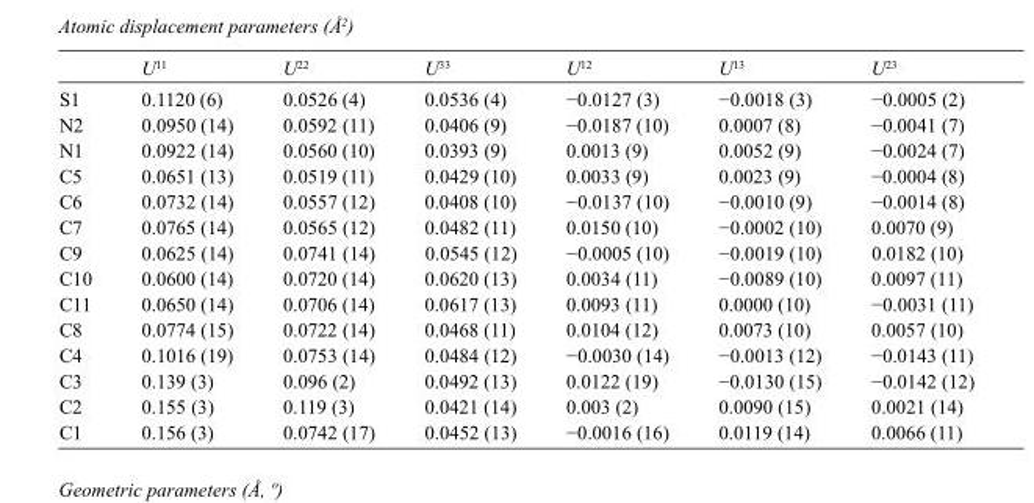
<table><thead><tr><td></td><td>U<sup>11</sup></td><td>U<sup>22</sup></td><td>U<sup>33</sup></td><td>U<sup>12</sup></td><td>U<sup>13</sup></td><td>U<sup>23</sup></td></tr></thead><tbody><tr><td>S1</td><td>0.1120 (6)</td><td>0.0526 (4)</td><td>0.0536 (4)</td><td>−0.0127 (3)</td><td>−0.0018 (3)</td><td>−0.0005 (2)</td></tr><tr><td>N2</td><td>0.0950 (14)</td><td>0.0592 (11)</td><td>0.0406 (9)</td><td>−0.0187 (10)</td><td>0.0007 (8)</td><td>−0.0041 (7)</td></tr><tr><td>N1</td><td>0.0922 (14)</td><td>0.0560 (10)</td><td>0.0393 (9)</td><td>0.0013 (9)</td><td>0.0052 (9)</td><td>−0.0024 (7)</td></tr><tr><td>C5</td><td>0.0651 (13)</td><td>0.0519 (11)</td><td>0.0429 (10)</td><td>0.0033 (9)</td><td>0.0023 (9)</td><td>−0.0004 (8)</td></tr><tr><td>C6</td><td>0.0732 (14)</td><td>0.0557 (12)</td><td>0.0408 (10)</td><td>−0.0137 (10)</td><td>−0.0010 (9)</td><td>−0.0014 (8)</td></tr><tr><td>C7</td><td>0.0765 (14)</td><td>0.0565 (12)</td><td>0.0482 (11)</td><td>0.0150 (10)</td><td>−0.0002 (10)</td><td>0.0070 (9)</td></tr><tr><td>C9</td><td>0.0625 (14)</td><td>0.0741 (14)</td><td>0.0545 (12)</td><td>−0.0005 (10)</td><td>−0.0019 (10)</td><td>0.0182 (10)</td></tr><tr><td>C10</td><td>0.0600 (14)</td><td>0.0720 (14)</td><td>0.0620 (13)</td><td>0.0034 (11)</td><td>−0.0089 (10)</td><td>0.0097 (11)</td></tr><tr><td>C11</td><td>0.0650 (14)</td><td>0.0706 (14)</td><td>0.0617 (13)</td><td>0.0093 (11)</td><td>0.0000 (10)</td><td>−0.0031 (11)</td></tr><tr><td>C8</td><td>0.0774 (15)</td><td>0.0722 (14)</td><td>0.0468 (11)</td><td>0.0104 (12)</td><td>0.0073 (10)</td><td>0.0057 (10)</td></tr><tr><td>C4</td><td>0.1016 (19)</td><td>0.0753 (14)</td><td>0.0484 (12)</td><td>−0.0030 (14)</td><td>−0.0013 (12)</td><td>−0.0143 (11)</td></tr><tr><td>C3</td><td>0.139 (3)</td><td>0.096 (2)</td><td>0.0492 (13)</td><td>0.0122 (19)</td><td>−0.0130 (15)</td><td>−0.0142 (12)</td></tr><tr><td>C2</td><td>0.155 (3)</td><td>0.119 (3)</td><td>0.0421 (14)</td><td>0.003 (2)</td><td>0.0090 (15)</td><td>0.0021 (14)</td></tr><tr><td>C1</td><td>0.156 (3)</td><td>0.0742 (17)</td><td>0.0452 (13)</td><td>−0.0016 (16)</td><td>0.0119 (14)</td><td>0.0066 (11)</td></tr></tbody></table>